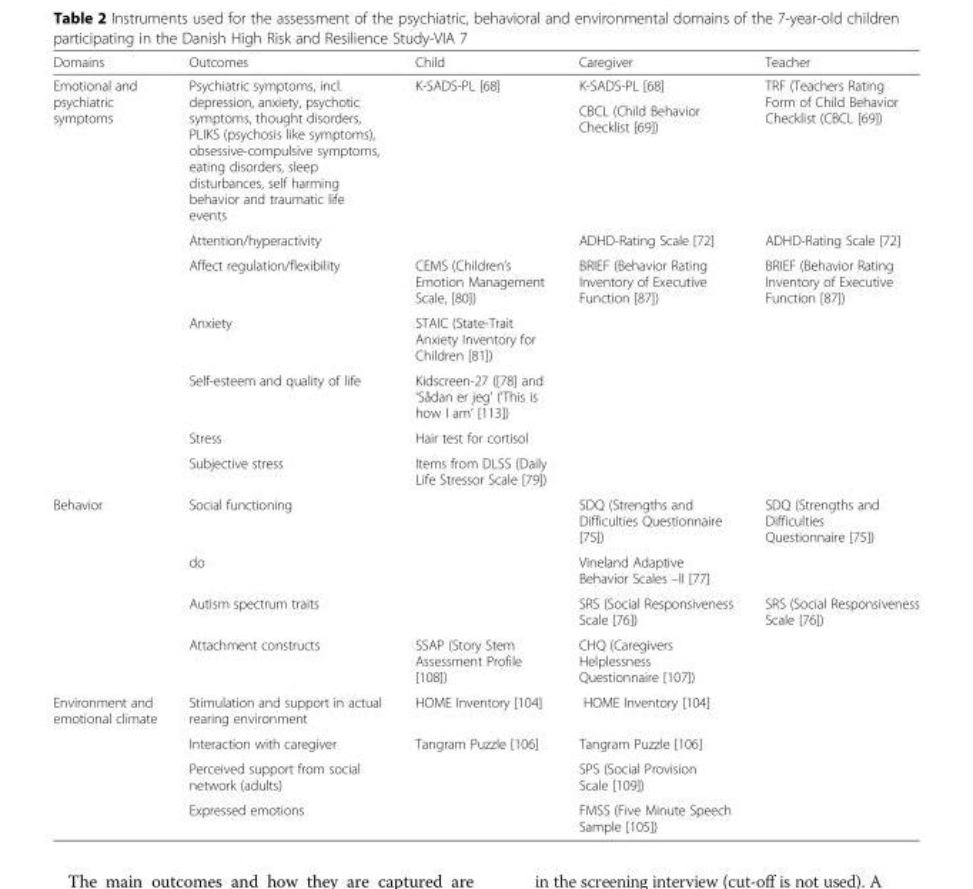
<table><thead><tr><td>Domains</td><td>Outcomes</td><td>Child</td><td>Caregiver</td><td>Teacher</td></tr></thead><tbody><tr><td rowspan="8">Emotional and psychiatric symptoms</td><td rowspan="2">Psychiatric symptoms, incl. depression, anxiety, psychotic symptoms, thought disorders, PLIKS (psychosis like symptoms), obsessive-compulsive symptoms, eating disorders, sleep disturbances, self harming behavior and traumatic life events</td><td rowspan="2">K-SADS-PL [68]</td><td>K-SADS-PL [68]</td><td rowspan="2">TRF (Teachers Rating Form of Child Behavior Checklist (CBCL [69])</td></tr><tr><td>CBCL (Child Behavior Checklist [69])</td></tr><tr><td>Attention/hyperactivity</td><td></td><td>ADHD-Rating Scale [72]</td><td>ADHD-Rating Scale [72]</td></tr><tr><td>Affect regulation/flexibility</td><td>CEMS (Children’s Emotion Management Scale, [80])</td><td>BRIEF (Behavior Rating Inventory of Executive Function [87])</td><td>BRIEF (Behavior Rating Inventory of Executive Function [87])</td></tr><tr><td>Anxiety</td><td>STAIC (State-Trait Anxiety Inventory for Children [81])</td><td></td><td></td></tr><tr><td>Self-esteem and quality of life</td><td>Kidscreen-27 ([78] and ‘Sådan er jeg’ (‘This is how I am’ [113])</td><td></td><td></td></tr><tr><td>Stress</td><td>Hair test for cortisol</td><td></td><td></td></tr><tr><td>Subjective stress</td><td>Items from DLSS (Daily Life Stressor Scale [79])</td><td></td><td></td></tr><tr><td rowspan="4">Behavior</td><td>Social functioning</td><td></td><td>SDQ (Strengths and Difficulties Questionnaire [75])</td><td>SDQ (Strengths and Difficulties Questionnaire [75])</td></tr><tr><td>do</td><td></td><td>Vineland Adaptive Behavior Scales –II [77]</td><td></td></tr><tr><td>Autism spectrum traits</td><td></td><td>SRS (Social Responsiveness Scale [76])</td><td>SRS (Social Responsiveness Scale [76])</td></tr><tr><td>Attachment constructs</td><td>SSAP (Story Stem Assessment Profile [108])</td><td>CHQ (Caregivers Helplessness Questionnaire [107])</td><td></td></tr><tr><td rowspan="4">Environment and emotional climate</td><td>Stimulation and support in actual rearing environment</td><td>HOME Inventory [104]</td><td>HOME Inventory [104]</td><td></td></tr><tr><td>Interaction with caregiver</td><td>Tangram Puzzle [106]</td><td>Tangram Puzzle [106]</td><td></td></tr><tr><td>Perceived support from social network (adults)</td><td></td><td>SPS (Social Provision Scale [109])</td><td></td></tr><tr><td>Expressed emotions</td><td></td><td>FMSS (Five Minute Speech Sample [105])</td><td></td></tr></tbody></table>